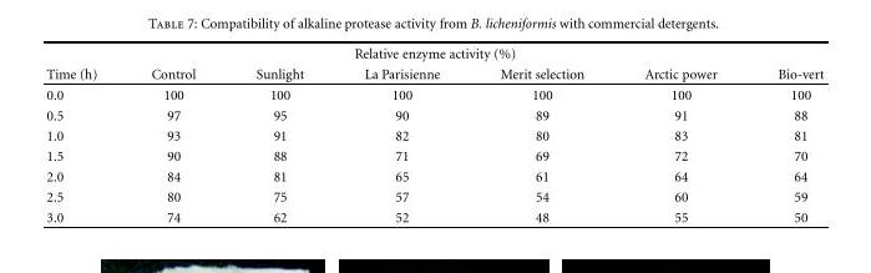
<table><thead><tr><td colspan="7">Relative enzyme activity (%)</td></tr><tr><td>Time (h)</td><td>Control</td><td>Sunlight</td><td>La Parisienne</td><td>Merit selection</td><td>Arctic power</td><td>Bio-vert</td></tr></thead><tbody><tr><td>0.0</td><td>100</td><td>100</td><td>100</td><td>100</td><td>100</td><td>100</td></tr><tr><td>0.5</td><td>97</td><td>95</td><td>90</td><td>89</td><td>91</td><td>88</td></tr><tr><td>1.0</td><td>93</td><td>91</td><td>82</td><td>80</td><td>83</td><td>81</td></tr><tr><td>1.5</td><td>90</td><td>88</td><td>71</td><td>69</td><td>72</td><td>70</td></tr><tr><td>2.0</td><td>84</td><td>81</td><td>65</td><td>61</td><td>64</td><td>64</td></tr><tr><td>2.5</td><td>80</td><td>75</td><td>57</td><td>54</td><td>60</td><td>59</td></tr><tr><td>3.0</td><td>74</td><td>62</td><td>52</td><td>48</td><td>55</td><td>50</td></tr></tbody></table>